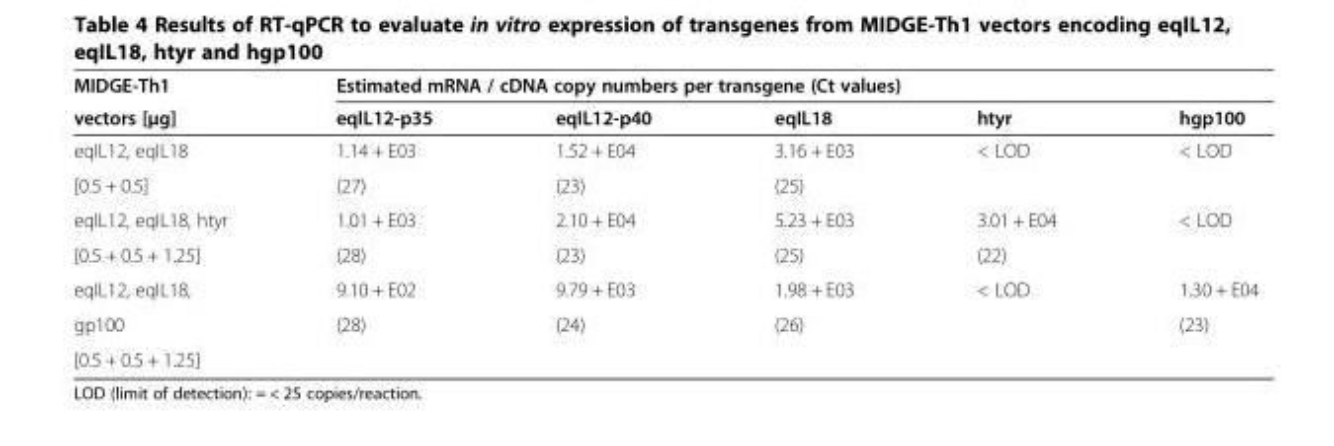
<table><thead><tr><td rowspan="2">MIDGE-Th1 vectors [μg]</td><td colspan="5">Estimated mRNA / cDNA copy numbers per transgene (Ct values)</td></tr><tr><td>eqIL12-p35</td><td>eqIL12-p40</td><td>eqIL18</td><td>htyr</td><td>hgp100</td></tr></thead><tbody><tr><td>eqIL12, eqIL18</td><td>1.14 + E03</td><td>1.52 + E04</td><td>3.16 + E03</td><td rowspan="2">&lt; LOD</td><td rowspan="2">&lt; LOD</td></tr><tr><td>[0.5 + 0.5]</td><td>(27)</td><td>(23)</td><td>(25)</td></tr><tr><td>eqIL12, eqIL18, htyr</td><td>1.01 + E03</td><td>2.10 + E04</td><td>5.23 + E03</td><td>3.01 + E04</td><td rowspan="2">&lt; LOD</td></tr><tr><td>[0.5 + 0.5 + 1.25]</td><td>(28)</td><td>(23)</td><td>(25)</td><td>(22)</td></tr><tr><td>eqIL12, eqIL18,</td><td>9.10 + E02</td><td>9.79 + E03</td><td>1.98 + E03</td><td>&lt; LOD</td><td>1.30 + E04</td></tr><tr><td>gp100</td><td rowspan="2">(28)</td><td rowspan="2">(24)</td><td rowspan="2">(26)</td><td rowspan="2"></td><td rowspan="2">(23)</td></tr><tr><td>[0.5 + 0.5 + 1.25]</td></tr></tbody></table>